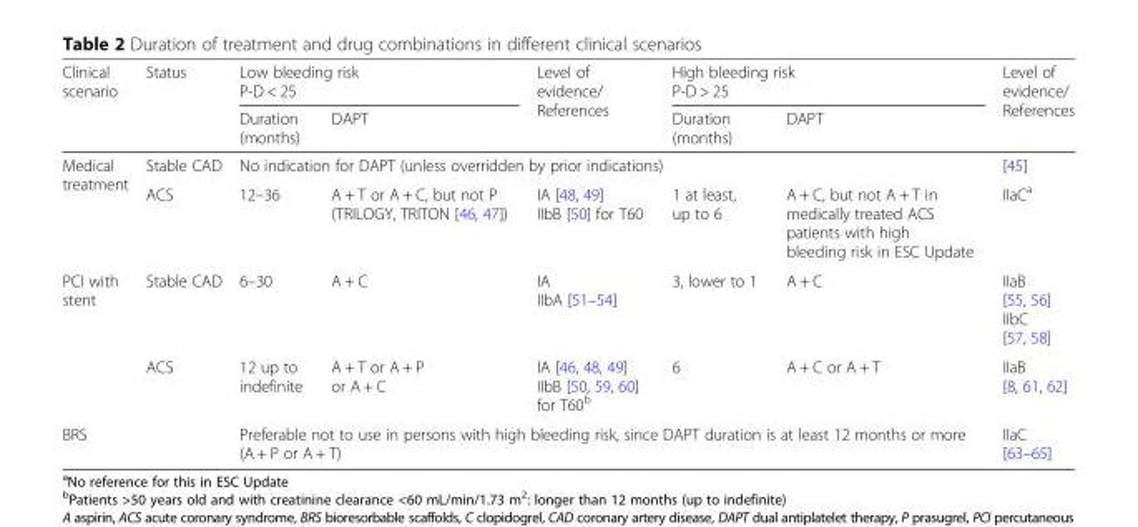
<table><thead><tr><td rowspan="2">Clinical scenario</td><td rowspan="2">Status</td><td colspan="2">Low bleeding risk P-D &lt; 25</td><td rowspan="2">Level of evidence/ References</td><td colspan="2">High bleeding risk P-D &gt; 25</td><td rowspan="2">Level of evidence/ References</td></tr><tr><td>Duration (months)</td><td>DAPT</td><td>Duration (months)</td><td>DAPT</td></tr></thead><tbody><tr><td rowspan="2">Medical treatment</td><td>Stable CAD</td><td colspan="5">No indication for DAPT (unless overridden by prior indications)</td><td>[45]</td></tr><tr><td>ACS</td><td>12–36</td><td>A + T or A + C, but not P (TRILOGY, TRITON [46, 47])</td><td>IA [48, 49] IIbB [50] for T60</td><td>1 at least, up to 6</td><td>A + C, but not A + T in medically treated ACS patients with high bleeding risk in ESC Update</td><td>IIaC<sup>a</sup></td></tr><tr><td rowspan="2">PCI with stent</td><td>Stable CAD</td><td>6–30</td><td>A + C</td><td>IA IIbA [51–54]</td><td>3, lower to 1</td><td>A + C</td><td>IIaB [55, 56] IIbC [57, 58]</td></tr><tr><td>ACS</td><td>12 up to indefinite</td><td>A + T or A + P or A + C</td><td>IA [46, 48, 49] IIbB [50, 59, 60] for T60<sup>b</sup></td><td>6</td><td>A + C or A + T</td><td>IIaB [8, 61, 62]</td></tr><tr><td>BRS</td><td></td><td colspan="5">Preferable not to use in persons with high bleeding risk, since DAPT duration is at least 12 months or more (A + P or A + T)</td><td>IIaC [63–65]</td></tr></tbody></table>